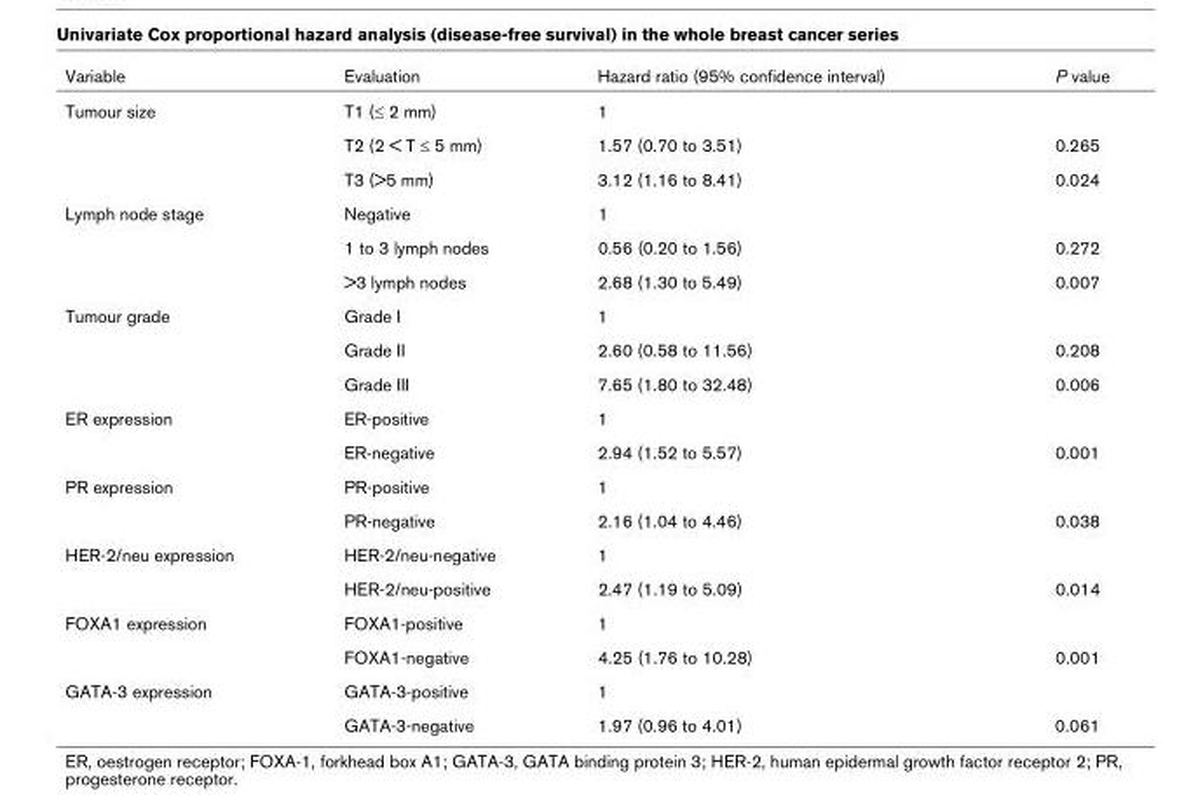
<table><thead><tr><td>Variable</td><td>Evaluation</td><td>Hazard ratio (95% confidence interval)</td><td>P value</td></tr></thead><tbody><tr><td rowspan="3">Tumour size</td><td>T1 (≤ 2 mm)</td><td>1</td><td></td></tr><tr><td>T2 (2 &lt; T ≤ 5 mm)</td><td>1.57 (0.70 to 3.51)</td><td>0.265</td></tr><tr><td>T3 (&gt;5 mm)</td><td>3.12 (1.16 to 8.41)</td><td>0.024</td></tr><tr><td rowspan="3">Lymph node stage</td><td>Negative</td><td>1</td><td></td></tr><tr><td>1 to 3 lymph nodes</td><td>0.56 (0.20 to 1.56)</td><td>0.272</td></tr><tr><td>&gt;3 lymph nodes</td><td>2.68 (1.30 to 5.49)</td><td>0.007</td></tr><tr><td rowspan="3">Tumour grade</td><td>Grade I</td><td>1</td><td></td></tr><tr><td>Grade II</td><td>2.60 (0.58 to 11.56)</td><td>0.208</td></tr><tr><td>Grade III</td><td>7.65 (1.80 to 32.48)</td><td>0.006</td></tr><tr><td rowspan="2">ER expression</td><td>ER-positive</td><td>1</td><td></td></tr><tr><td>ER-negative</td><td>2.94 (1.52 to 5.57)</td><td>0.001</td></tr><tr><td rowspan="2">PR expression</td><td>PR-positive</td><td>1</td><td></td></tr><tr><td>PR-negative</td><td>2.16 (1.04 to 4.46)</td><td>0.038</td></tr><tr><td rowspan="2">HER-2/neu expression</td><td>HER-2/neu-negative</td><td>1</td><td></td></tr><tr><td>HER-2/neu-positive</td><td>2.47 (1.19 to 5.09)</td><td>0.014</td></tr><tr><td rowspan="2">FOXA1 expression</td><td>FOXA1-positive</td><td>1</td><td></td></tr><tr><td>FOXA1-negative</td><td>4.25 (1.76 to 10.28)</td><td>0.001</td></tr><tr><td rowspan="2">GATA-3 expression</td><td>GATA-3-positive</td><td>1</td><td></td></tr><tr><td>GATA-3-negative</td><td>1.97 (0.96 to 4.01)</td><td>0.061</td></tr></tbody></table>